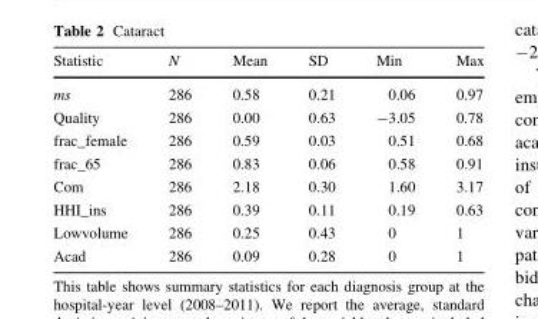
<table><thead><tr><td>Statistic</td><td>N</td><td>Mean</td><td>SD</td><td>Min</td><td>Max</td></tr></thead><tbody><tr><td>ms</td><td>286</td><td>0.58</td><td>0.21</td><td>0.06</td><td>0.97</td></tr><tr><td>Quality</td><td>286</td><td>0.00</td><td>0.63</td><td>-3.05</td><td>0.78</td></tr><tr><td>frac_female</td><td>286</td><td>0.59</td><td>0.03</td><td>0.51</td><td>0.68</td></tr><tr><td>frac_65</td><td>286</td><td>0.83</td><td>0.06</td><td>0.58</td><td>0.91</td></tr><tr><td>Com</td><td>286</td><td>2.18</td><td>0.30</td><td>1.60</td><td>3.17</td></tr><tr><td>HHI_ins</td><td>286</td><td>0.39</td><td>0.11</td><td>0.19</td><td>0.63</td></tr><tr><td>Lowvolume</td><td>286</td><td>0.25</td><td>0.43</td><td>0</td><td>1</td></tr><tr><td>Acad</td><td>286</td><td>0.09</td><td>0.28</td><td>0</td><td>1</td></tr></tbody></table>